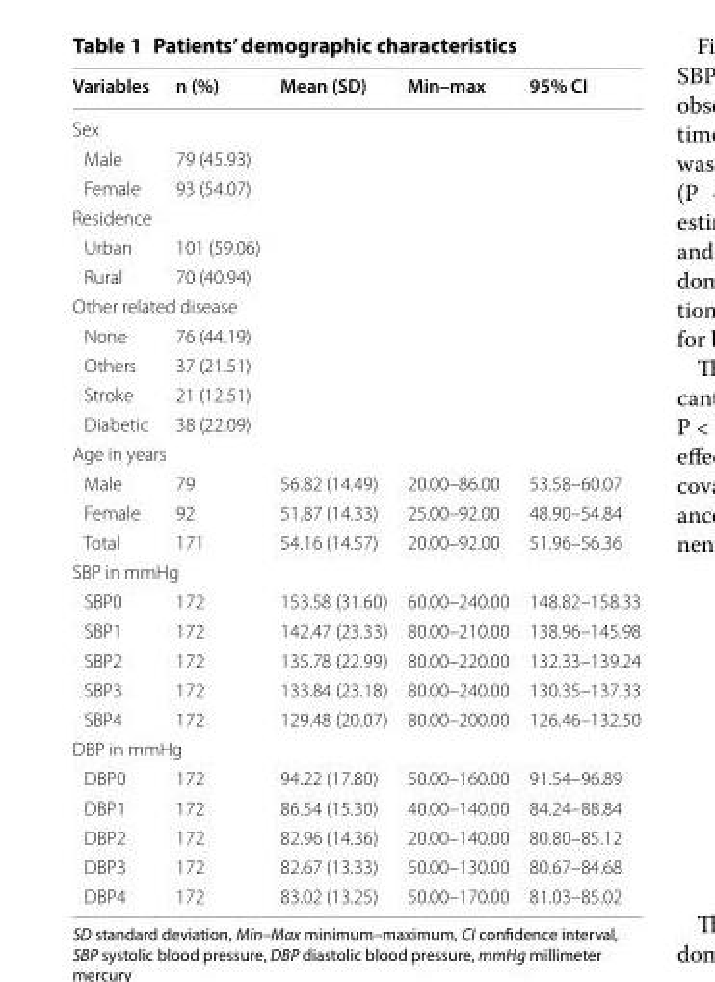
<table><thead><tr><td>Variables</td><td>n (%)</td><td>Mean (SD)</td><td>Min–max</td><td>95% CI</td></tr></thead><tbody><tr><td colspan="5">Sex</td></tr><tr><td>Male</td><td>79 (45.93)</td><td></td><td></td><td></td></tr><tr><td>Female</td><td>93 (54.07)</td><td></td><td></td><td></td></tr><tr><td colspan="5">Residence</td></tr><tr><td>Urban</td><td>101 (59.06)</td><td></td><td></td><td></td></tr><tr><td>Rural</td><td>70 (40.94)</td><td></td><td></td><td></td></tr><tr><td colspan="5">Other related disease</td></tr><tr><td>None</td><td>76 (44.19)</td><td></td><td></td><td></td></tr><tr><td>Others</td><td>37 (21.51)</td><td></td><td></td><td></td></tr><tr><td>Stroke</td><td>21 (12.51)</td><td></td><td></td><td></td></tr><tr><td>Diabetic</td><td>38 (22.09)</td><td></td><td></td><td></td></tr><tr><td colspan="5">Age in years</td></tr><tr><td>Male</td><td>79</td><td>56.82 (14.49)</td><td>20.00–86.00</td><td>53.58–60.07</td></tr><tr><td>Female</td><td>92</td><td>51.87 (14.33)</td><td>25.00–92.00</td><td>48.90–54.84</td></tr><tr><td>Total</td><td>171</td><td>54.16 (14.57)</td><td>20.00–92.00</td><td>51.96–56.36</td></tr><tr><td colspan="5">SBP in mmHg</td></tr><tr><td>SBP0</td><td>172</td><td>153.58 (31.60)</td><td>60.00–240.00</td><td>148.82–158.33</td></tr><tr><td>SBP1</td><td>172</td><td>142.47 (23.33)</td><td>80.00–210.00</td><td>138.96–145.98</td></tr><tr><td>SBP2</td><td>172</td><td>135.78 (22.99)</td><td>80.00–220.00</td><td>132.33–139.24</td></tr><tr><td>SBP3</td><td>172</td><td>133.84 (23.18)</td><td>80.00–240.00</td><td>130.35–137.33</td></tr><tr><td>SBP4</td><td>172</td><td>129.48 (20.07)</td><td>80.00–200.00</td><td>126.46–132.50</td></tr><tr><td colspan="5">DBP in mmHg</td></tr><tr><td>DBP0</td><td>172</td><td>94.22 (17.80)</td><td>50.00–160.00</td><td>91.54–96.89</td></tr><tr><td>DBP1</td><td>172</td><td>86.54 (15.30)</td><td>40.00–140.00</td><td>84.24–88.84</td></tr><tr><td>DBP2</td><td>172</td><td>82.96 (14.36)</td><td>20.00–140.00</td><td>80.80–85.12</td></tr><tr><td>DBP3</td><td>172</td><td>82.67 (13.33)</td><td>50.00–130.00</td><td>80.67–84.68</td></tr><tr><td>DBP4</td><td>172</td><td>83.02 (13.25)</td><td>50.00–170.00</td><td>81.03–85.02</td></tr></tbody></table>